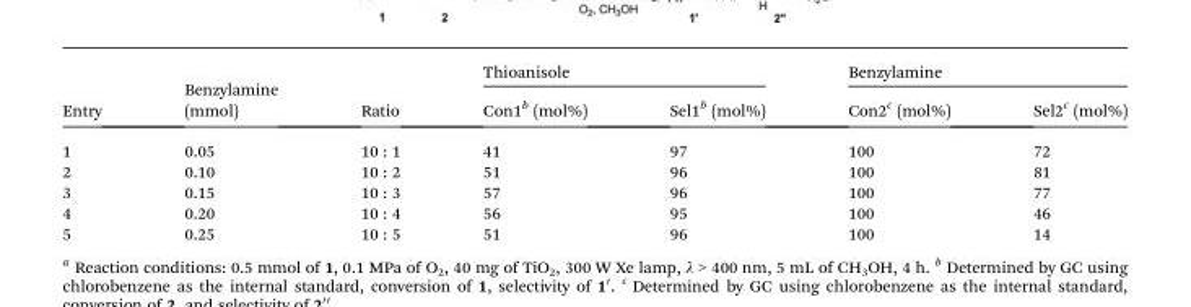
<table><thead><tr><td rowspan="2">Entry</td><td rowspan="2">Benzylamine (mmol)</td><td rowspan="2">Ratio</td><td colspan="2">Thioanisole</td><td colspan="2">Benzylamine</td></tr><tr><td>Con1<sup>b</sup> (mol%)</td><td>Sel1<sup>b</sup> (mol%)</td><td>Con2<sup>c</sup> (mol%)</td><td>Sel2<sup>c</sup> (mol%)</td></tr></thead><tbody><tr><td>1</td><td>0.05</td><td>10 : 1</td><td>41</td><td>97</td><td>100</td><td>72</td></tr><tr><td>2</td><td>0.10</td><td>10 : 2</td><td>51</td><td>96</td><td>100</td><td>81</td></tr><tr><td>3</td><td>0.15</td><td>10 : 3</td><td>57</td><td>96</td><td>100</td><td>77</td></tr><tr><td>4</td><td>0.20</td><td>10 : 4</td><td>56</td><td>95</td><td>100</td><td>46</td></tr><tr><td>5</td><td>0.25</td><td>10 : 5</td><td>51</td><td>96</td><td>100</td><td>14</td></tr></tbody></table>